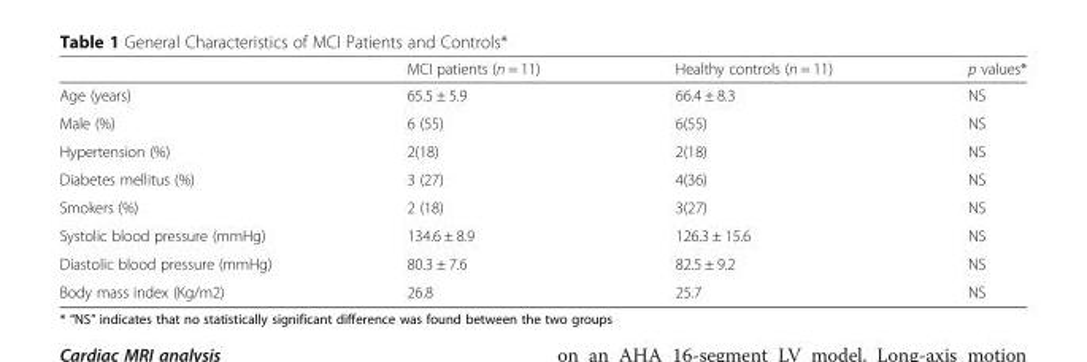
<table><thead><tr><td></td><td>MCI patients (n = 11)</td><td>Healthy controls (n = 11)</td><td>p values*</td></tr></thead><tbody><tr><td>Age (years)</td><td>65.5 ± 5.9</td><td>66.4 ± 8.3</td><td>NS</td></tr><tr><td>Male (%)</td><td>6 (55)</td><td>6(55)</td><td>NS</td></tr><tr><td>Hypertension (%)</td><td>2(18)</td><td>2(18)</td><td>NS</td></tr><tr><td>Diabetes mellitus (%)</td><td>3 (27)</td><td>4(36)</td><td>NS</td></tr><tr><td>Smokers (%)</td><td>2 (18)</td><td>3(27)</td><td>NS</td></tr><tr><td>Systolic blood pressure (mmHg)</td><td>134.6 ± 8.9</td><td>126.3 ± 15.6</td><td>NS</td></tr><tr><td>Diastolic blood pressure (mmHg)</td><td>80.3 ± 7.6</td><td>82.5 ± 9.2</td><td>NS</td></tr><tr><td>Body mass index (Kg/m2)</td><td>26.8</td><td>25.7</td><td>NS</td></tr></tbody></table>